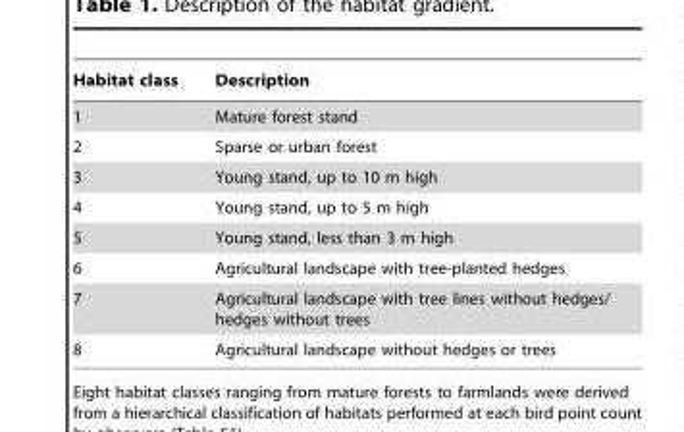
<table><thead><tr><td>Habitat class</td><td>Description</td></tr></thead><tbody><tr><td>1</td><td>Mature forest stand</td></tr><tr><td>2</td><td>Sparse or urban forest</td></tr><tr><td>3</td><td>Young stand, up to 10 m high</td></tr><tr><td>4</td><td>Young stand, up to 5 m high</td></tr><tr><td>5</td><td>Young stand, less than 3 m high</td></tr><tr><td>6</td><td>Agricultural landscape with tree-planted hedges</td></tr><tr><td>7</td><td>Agricultural landscape with tree lines without hedges/ hedges without trees</td></tr><tr><td>8</td><td>Agricultural landscape without hedges or trees</td></tr></tbody></table>